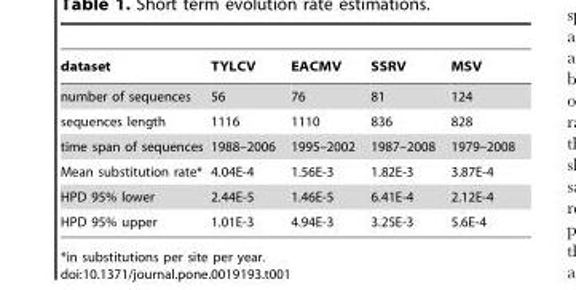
<table><thead><tr><td>dataset</td><td>TYLCV</td><td>EACMV</td><td>SSRV</td><td>MSV</td></tr></thead><tbody><tr><td>number of sequences</td><td>56</td><td>76</td><td>81</td><td>124</td></tr><tr><td>sequences length</td><td>1116</td><td>1110</td><td>836</td><td>828</td></tr><tr><td>time span of sequences</td><td>1988–2006</td><td>1995–2002</td><td>1987–2008</td><td>1979–2008</td></tr><tr><td>Mean substitution rate*</td><td>4.04E-4</td><td>1.56E-3</td><td>1.82E-3</td><td>3.87E-4</td></tr><tr><td>HPD 95% lower</td><td>2.44E-5</td><td>1.46E-5</td><td>6.41E-4</td><td>2.12E-4</td></tr><tr><td>HPD 95% upper</td><td>1.01E-3</td><td>4.94E-3</td><td>3.25E-3</td><td>5.6E-4</td></tr></tbody></table>